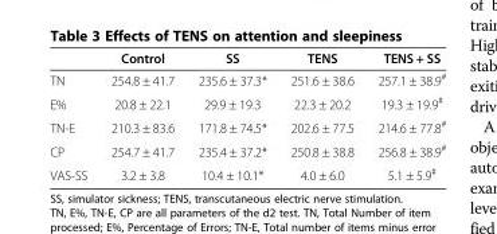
<table><thead><tr><td></td><td>Control</td><td>SS</td><td>TENS</td><td>TENS + SS</td></tr></thead><tbody><tr><td>TN</td><td>254.8 ± 41.7</td><td>235.6 ± 37.3*</td><td>251.6 ± 38.6</td><td>257.1 ± 38.9<sup>#</sup></td></tr><tr><td>E%</td><td>20.8 ± 22.1</td><td>29.9 ± 19.3</td><td>22.3 ± 20.2</td><td>19.3 ± 19.9<sup>#</sup></td></tr><tr><td>TN-E</td><td>210.3 ± 83.6</td><td>171.8 ± 74.5*</td><td>202.6 ± 77.5</td><td>214.6 ± 77.8<sup>#</sup></td></tr><tr><td>CP</td><td>254.7 ± 41.7</td><td>235.4 ± 37.2*</td><td>250.8 ± 38.8</td><td>256.8 ± 38.9<sup>#</sup></td></tr><tr><td>VAS-SS</td><td>3.2 ± 3.8</td><td>10.4 ± 10.1*</td><td>4.0 ± 6.0</td><td>5.1 ± 5.9<sup>#</sup></td></tr></tbody></table>